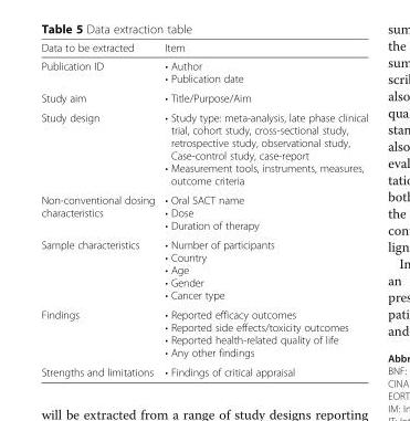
<table><thead><tr><td>Data to be extracted</td><td>Item</td></tr></thead><tbody><tr><td>Publication ID</td><td>• Author • Publication date</td></tr><tr><td>Study aim</td><td>• Title/Purpose/Aim</td></tr><tr><td>Study design</td><td>• Study type: meta-analysis, late phase clinical trial, cohort study, cross-sectional study, retrospective study, observational study, Case-control study, case-report • Measurement tools, instruments, measures, outcome criteria</td></tr><tr><td>Non-conventional dosing characteristics</td><td>• Oral SACT name • Dose • Duration of therapy</td></tr><tr><td>Sample characteristics</td><td>• Number of participants • Country • Age • Gender • Cancer type</td></tr><tr><td>Findings</td><td>• Reported efficacy outcomes • Reported side effects/toxicity outcomes • Reported health-related quality of life • Any other findings</td></tr><tr><td>Strengths and limitations</td><td>• Findings of critical appraisal</td></tr></tbody></table>